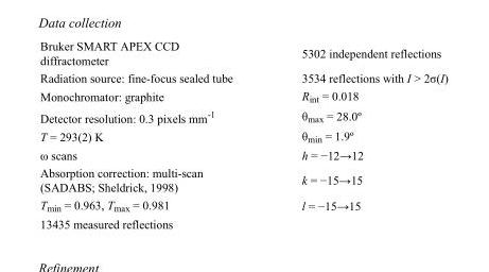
<table><tbody><tr><td>Bruker SMART APEX CCD diffractometer</td><td>5302 independent reflections</td></tr><tr><td>Radiation source: fine-focus sealed tube</td><td>3534 reflections with I &gt; 2σ(I)</td></tr><tr><td>Monochromator: graphite</td><td>R<sub>int</sub> = 0.018</td></tr><tr><td>Detector resolution: 0.3 pixels mm<sup>-1</sup></td><td>θ<sub>max</sub> = 28.0º</td></tr><tr><td>T = 293(2) K</td><td>θ<sub>min</sub> = 1.9º</td></tr><tr><td>ω scans</td><td>h = −12→12</td></tr><tr><td>Absorption correction: multi-scan (SADABS; Sheldrick, 1998)</td><td>k = −15→15</td></tr><tr><td>T<sub>min</sub> = 0.963, T<sub>max</sub> = 0.981</td><td>l = −15→15</td></tr><tr><td>13435 measured reflections</td><td></td></tr></tbody></table>